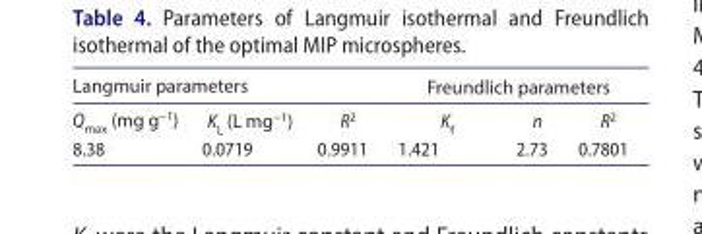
<table><thead><tr><td colspan="3">Langmuir parameters</td><td colspan="3">Freundlich parameters</td></tr><tr><td>Q<sub>max</sub> (mg g<sup>−1</sup>)</td><td>K<sub>L</sub> (L mg<sup>−1</sup>)</td><td>R<sup>2</sup></td><td>K<sub>f</sub></td><td>n</td><td>R<sup>2</sup></td></tr></thead><tbody><tr><td>8.38</td><td>0.0719</td><td>0.9911</td><td>1.421</td><td>2.73</td><td>0.7801</td></tr></tbody></table>